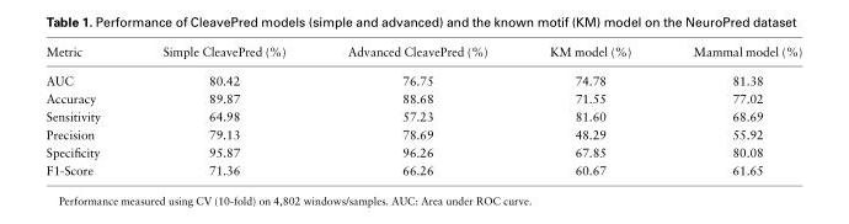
<table><thead><tr><td>Metric</td><td>Simple CleavePred (%)</td><td>Advanced CleavePred (%)</td><td>KM model (%)</td><td>Mammal model (%)</td></tr></thead><tbody><tr><td>AUC</td><td>80.42</td><td>76.75</td><td>74.78</td><td>81.38</td></tr><tr><td>Accuracy</td><td>89.87</td><td>88.68</td><td>71.55</td><td>77.02</td></tr><tr><td>Sensitivity</td><td>64.98</td><td>57.23</td><td>81.60</td><td>68.69</td></tr><tr><td>Precision</td><td>79.13</td><td>78.69</td><td>48.29</td><td>55.92</td></tr><tr><td>Specificity</td><td>95.87</td><td>96.26</td><td>67.85</td><td>80.08</td></tr><tr><td>F1-Score</td><td>71.36</td><td>66.26</td><td>60.67</td><td>61.65</td></tr></tbody></table>